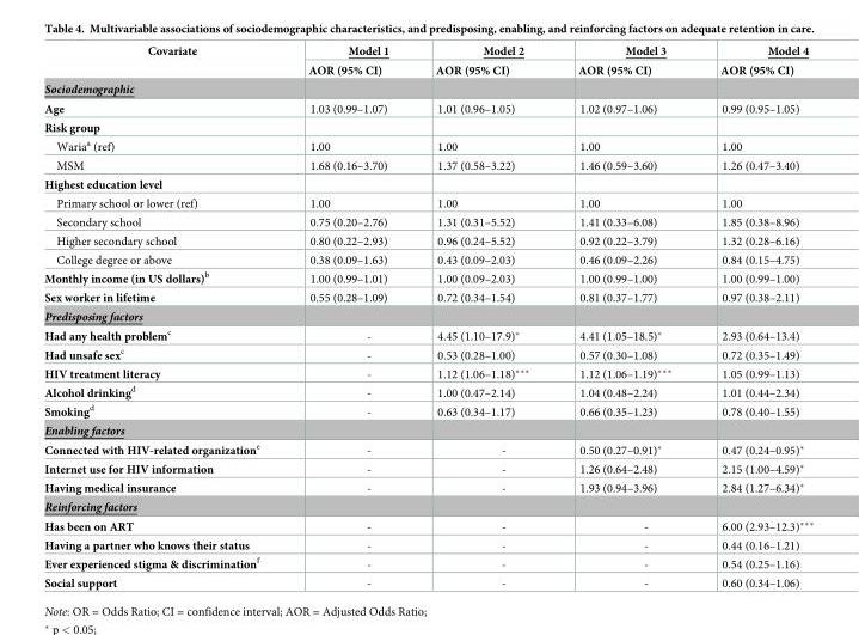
<table><thead><tr><td rowspan="2">Covariate</td><td rowspan="2">Model 1 AOR (95% CI)</td><td rowspan="2">Model 2 AOR (95% CI)</td><td rowspan="2">Model 3 AOR (95% CI)</td><td rowspan="2">Model 4 AOR (95% CI)</td></tr><tr></tr></thead><tbody><tr><td colspan="5">Sociodemographic</td></tr><tr><td>Age</td><td>1.03 (0.99–1.07)</td><td>1.01 (0.96–1.05)</td><td>1.02 (0.97–1.06)</td><td>0.99 (0.95–1.05)</td></tr><tr><td colspan="5">Risk group</td></tr><tr><td>Waria<sup>a</sup> (ref)</td><td>1.00</td><td>1.00</td><td>1.00</td><td>1.00</td></tr><tr><td>MSM</td><td>1.68 (0.16–3.70)</td><td>1.37 (0.58–3.22)</td><td>1.46 (0.59–3.60)</td><td>1.26 (0.47–3.40)</td></tr><tr><td colspan="5">Highest education level</td></tr><tr><td>Primary school or lower (ref)</td><td>1.00</td><td>1.00</td><td>1.00</td><td>1.00</td></tr><tr><td>Secondary school</td><td>0.75 (0.20–2.76)</td><td>1.31 (0.31–5.52)</td><td>1.41 (0.33–6.08)</td><td>1.85 (0.38–8.96)</td></tr><tr><td>Higher secondary school</td><td>0.80 (0.22–2.93)</td><td>0.96 (0.24–5.52)</td><td>0.92 (0.22–3.79)</td><td>1.32 (0.28–6.16)</td></tr><tr><td>College degree or above</td><td>0.38 (0.09–1.63)</td><td>0.43 (0.09–2.03)</td><td>0.46 (0.09–2.26)</td><td>0.84 (0.15–4.75)</td></tr><tr><td>Monthly income (in US dollars)<sup>b</sup></td><td>1.00 (0.99–1.01)</td><td>1.00 (0.09–2.03)</td><td>1.00 (0.99–1.00)</td><td>1.00 (0.99–1.00)</td></tr><tr><td>Sex worker in lifetime</td><td>0.55 (0.28–1.09)</td><td>0.72 (0.34–1.54)</td><td>0.81 (0.37–1.77)</td><td>0.97 (0.38–2.11)</td></tr><tr><td colspan="5">Predisposing factors</td></tr><tr><td>Had any health problem<sup>c</sup></td><td>-</td><td>4.45 (1.10–17.9)*</td><td>4.41 (1.05–18.5)*</td><td>2.93 (0.64–13.4)</td></tr><tr><td>Had unsafe sex<sup>c</sup></td><td>-</td><td>0.53 (0.28–1.00)</td><td>0.57 (0.30–1.08)</td><td>0.72 (0.35–1.49)</td></tr><tr><td>HIV treatment literacy</td><td>-</td><td>1.12 (1.06–1.18)***</td><td>1.12 (1.06–1.19)***</td><td>1.05 (0.99–1.13)</td></tr><tr><td>Alcohol drinking<sup>d</sup></td><td>-</td><td>1.00 (0.47–2.14)</td><td>1.04 (0.48–2.24)</td><td>1.01 (0.44–2.34)</td></tr><tr><td>Smoking<sup>d</sup></td><td>-</td><td>0.63 (0.34–1.17)</td><td>0.66 (0.35–1.23)</td><td>0.78 (0.40–1.55)</td></tr><tr><td colspan="5">Enabling factors</td></tr><tr><td>Connected with HIV-related organization<sup>e</sup></td><td>-</td><td>-</td><td>0.50 (0.27–0.91)*</td><td>0.47 (0.24–0.95)*</td></tr><tr><td>Internet use for HIV information</td><td>-</td><td>-</td><td>1.26 (0.64–2.48)</td><td>2.15 (1.00–4.59)*</td></tr><tr><td>Having medical insurance</td><td>-</td><td>-</td><td>1.93 (0.94–3.96)</td><td>2.84 (1.27–6.34)*</td></tr><tr><td colspan="5">Reinforcing factors</td></tr><tr><td>Has been on ART</td><td>-</td><td>-</td><td>-</td><td>6.00 (2.93–12.3)***</td></tr><tr><td>Having a partner who knows their status</td><td>-</td><td>-</td><td>-</td><td>0.44 (0.16–1.21)</td></tr><tr><td>Ever experienced stigma &amp; discrimination<sup>f</sup></td><td>-</td><td>-</td><td>-</td><td>0.54 (0.25–1.16)</td></tr><tr><td>Social support</td><td>-</td><td>-</td><td>-</td><td>0.60 (0.34–1.06)</td></tr></tbody></table>